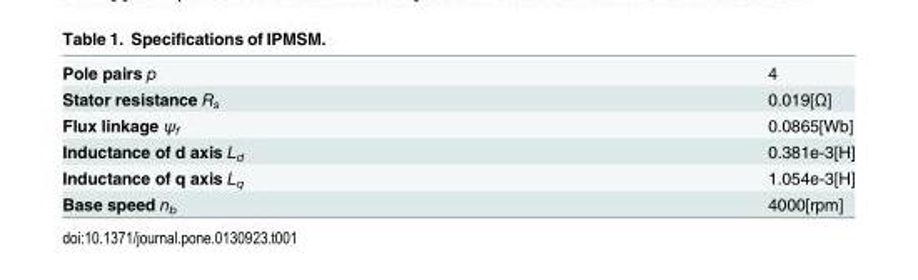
<table><tbody><tr><td>Pole pairs p</td><td>4</td></tr><tr><td>Stator resistance R<sub>s</sub></td><td>0.019[Ω]</td></tr><tr><td>Flux linkage ψ<sub>f</sub></td><td>0.0865[Wb]</td></tr><tr><td>Inductance of d axis L<sub>d</sub></td><td>0.381e-3[H]</td></tr><tr><td>Inductance of q axis L<sub>q</sub></td><td>1.054e-3[H]</td></tr><tr><td>Base speed n<sub>b</sub></td><td>4000[rpm]</td></tr></tbody></table>